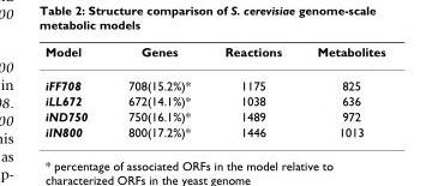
<table><thead><tr><td>Model</td><td>Genes</td><td>Reactions</td><td>Metabolites</td></tr></thead><tbody><tr><td>iFF708</td><td>708(15.2%)*</td><td>1175</td><td>825</td></tr><tr><td>iLL672</td><td>672(14.1%)*</td><td>1038</td><td>636</td></tr><tr><td>iND750</td><td>750(16.1%)*</td><td>1489</td><td>972</td></tr><tr><td>iIN800</td><td>800(17.2%)*</td><td>1446</td><td>1013</td></tr></tbody></table>